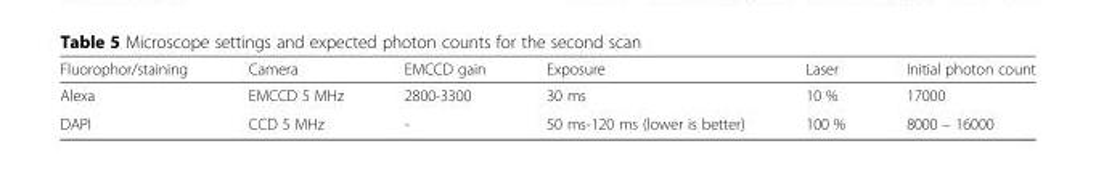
<table><thead><tr><td>Fluorophor/staining</td><td>Camera</td><td>EMCCD gain</td><td>Exposure</td><td>Laser</td><td>Initial photon count</td></tr></thead><tbody><tr><td>Alexa</td><td>EMCCD 5 MHz</td><td>2800-3300</td><td>30 ms</td><td>10 %</td><td>17000</td></tr><tr><td>DAPI</td><td>CCD 5 MHz</td><td>-</td><td>50 ms-120 ms (lower is better)</td><td>100 %</td><td>8000 – 16000</td></tr></tbody></table>